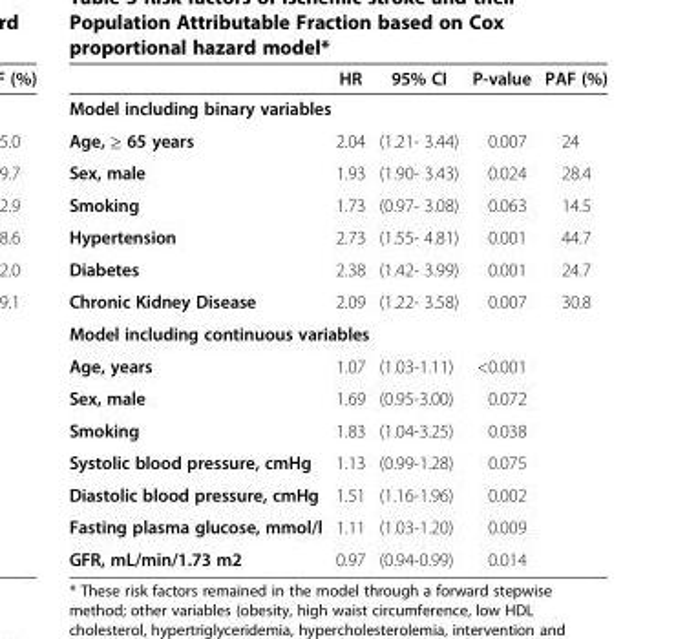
<table><thead><tr><td></td><td>HR</td><td>95% CI</td><td>P-value</td><td>PAF (%)</td></tr></thead><tbody><tr><td colspan="5">Model including binary variables</td></tr><tr><td>Age, ≥ 65 years</td><td>2.04</td><td>(1.21- 3.44)</td><td>0.007</td><td>24</td></tr><tr><td>Sex, male</td><td>1.93</td><td>(1.90- 3.43)</td><td>0.024</td><td>28.4</td></tr><tr><td>Smoking</td><td>1.73</td><td>(0.97- 3.08)</td><td>0.063</td><td>14.5</td></tr><tr><td>Hypertension</td><td>2.73</td><td>(1.55- 4.81)</td><td>0.001</td><td>44.7</td></tr><tr><td>Diabetes</td><td>2.38</td><td>(1.42- 3.99)</td><td>0.001</td><td>24.7</td></tr><tr><td>Chronic Kidney Disease</td><td>2.09</td><td>(1.22- 3.58)</td><td>0.007</td><td>30.8</td></tr><tr><td colspan="5">Model including continuous variables</td></tr><tr><td>Age, years</td><td>1.07</td><td>(1.03-1.11)</td><td>&lt;0.001</td><td></td></tr><tr><td>Sex, male</td><td>1.69</td><td>(0.95-3.00)</td><td>0.072</td><td></td></tr><tr><td>Smoking</td><td>1.83</td><td>(1.04-3.25)</td><td>0.038</td><td></td></tr><tr><td>Systolic blood pressure, cmHg</td><td>1.13</td><td>(0.99-1.28)</td><td>0.075</td><td></td></tr><tr><td>Diastolic blood pressure, cmHg</td><td>1.51</td><td>(1.16-1.96)</td><td>0.002</td><td></td></tr><tr><td>Fasting plasma glucose, mmol/l</td><td>1.11</td><td>(1.03-1.20)</td><td>0.009</td><td></td></tr><tr><td>GFR, mL/min/1.73 m2</td><td>0.97</td><td>(0.94-0.99)</td><td>0.014</td><td></td></tr></tbody></table>